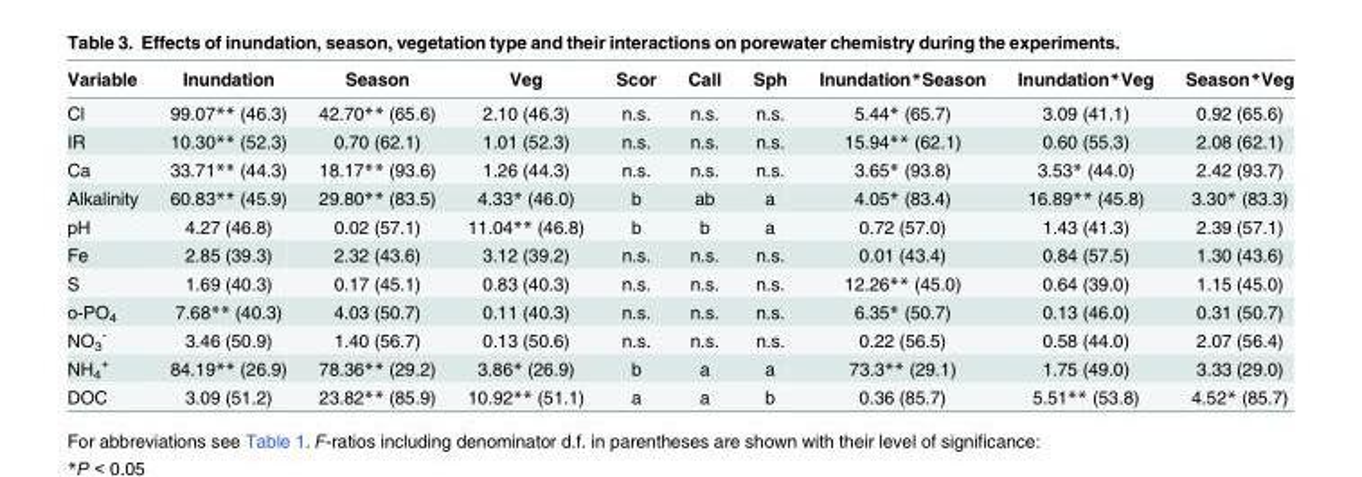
<table><thead><tr><td>Variable</td><td>Inundation</td><td>Season</td><td>Veg</td><td>Scor</td><td>Call</td><td>Sph</td><td>Inundation*Season</td><td>Inundation*Veg</td><td>Season*Veg</td></tr></thead><tbody><tr><td>Cl</td><td>99.07** (46.3)</td><td>42.70** (65.6)</td><td>2.10 (46.3)</td><td>n.s.</td><td>n.s.</td><td>n.s.</td><td>5.44* (65.7)</td><td>3.09 (41.1)</td><td>0.92 (65.6)</td></tr><tr><td>IR</td><td>10.30** (52.3)</td><td>0.70 (62.1)</td><td>1.01 (52.3)</td><td>n.s.</td><td>n.s.</td><td>n.s.</td><td>15.94** (62.1)</td><td>0.60 (55.3)</td><td>2.08 (62.1)</td></tr><tr><td>Ca</td><td>33.71** (44.3)</td><td>18.17** (93.6)</td><td>1.26 (44.3)</td><td>n.s.</td><td>n.s.</td><td>n.s.</td><td>3.65* (93.8)</td><td>3.53* (44.0)</td><td>2.42 (93.7)</td></tr><tr><td>Alkalinity</td><td>60.83** (45.9)</td><td>29.80** (83.5)</td><td>4.33* (46.0)</td><td>b</td><td>ab</td><td>a</td><td>4.05* (83.4)</td><td>16.89** (45.8)</td><td>3.30* (83.3)</td></tr><tr><td>pH</td><td>4.27 (46.8)</td><td>0.02 (57.1)</td><td>11.04** (46.8)</td><td>b</td><td>b</td><td>a</td><td>0.72 (57.0)</td><td>1.43 (41.3)</td><td>2.39 (57.1)</td></tr><tr><td>Fe</td><td>2.85 (39.3)</td><td>2.32 (43.6)</td><td>3.12 (39.2)</td><td>n.s.</td><td>n.s.</td><td>n.s.</td><td>0.01 (43.4)</td><td>0.84 (57.5)</td><td>1.30 (43.6)</td></tr><tr><td>S</td><td>1.69 (40.3)</td><td>0.17 (45.1)</td><td>0.83 (40.3)</td><td>n.s.</td><td>n.s.</td><td>n.s.</td><td>12.26** (45.0)</td><td>0.64 (39.0)</td><td>1.15 (45.0)</td></tr><tr><td>o-PO<sub>4</sub></td><td>7.68** (40.3)</td><td>4.03 (50.7)</td><td>0.11 (40.3)</td><td>n.s.</td><td>n.s.</td><td>n.s.</td><td>6.35* (50.7)</td><td>0.13 (46.0)</td><td>0.31 (50.7)</td></tr><tr><td>NO<sub>3</sub> <sup>-</sup></td><td>3.46 (50.9)</td><td>1.40 (56.7)</td><td>0.13 (50.6)</td><td>n.s.</td><td>n.s.</td><td>n.s.</td><td>0.22 (56.5)</td><td>0.58 (44.0)</td><td>2.07 (56.4)</td></tr><tr><td>NH<sub>4</sub> <sup>+</sup></td><td>84.19** (26.9)</td><td>78.36** (29.2)</td><td>3.86* (26.9)</td><td>b</td><td>a</td><td>a</td><td>73.3** (29.1)</td><td>1.75 (49.0)</td><td>3.33 (29.0)</td></tr><tr><td>DOC</td><td>3.09 (51.2)</td><td>23.82** (85.9)</td><td>10.92** (51.1)</td><td>a</td><td>a</td><td>b</td><td>0.36 (85.7)</td><td>5.51** (53.8)</td><td>4.52* (85.7)</td></tr></tbody></table>